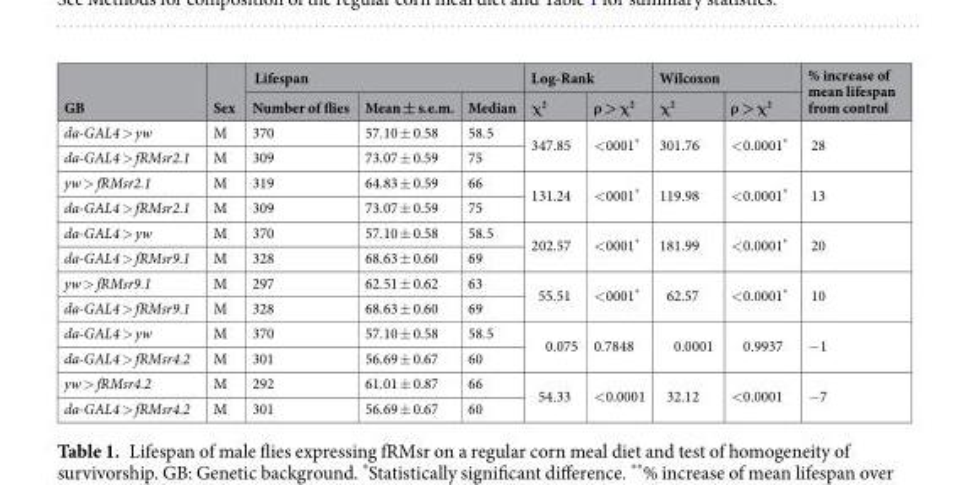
<table><thead><tr><td rowspan="2">GB</td><td rowspan="2">Sex</td><td colspan="3">Lifespan</td><td colspan="2">Log-Rank</td><td colspan="2">Wilcoxon</td><td rowspan="2">% increase of mean lifespan from control</td></tr><tr><td>Number of flies</td><td>Mean ± s.e.m.</td><td>Median</td><td>χ<sup>2</sup></td><td>ρ &gt; χ<sup>2</sup></td><td>χ<sup>2</sup></td><td>ρ &gt; χ<sup>2</sup></td></tr></thead><tbody><tr><td>da-GAL4 &gt; yw</td><td>M</td><td>370</td><td>57.10 ± 0.58</td><td>58.5</td><td rowspan="2">347.85</td><td rowspan="2">&lt;0001*</td><td rowspan="2">301.76</td><td rowspan="2">&lt;0.0001*</td><td rowspan="2">28</td></tr><tr><td>da-GAL4 &gt; fRMsr2.1</td><td>M</td><td>309</td><td>73.07 ± 0.59</td><td>75</td></tr><tr><td>yw &gt; fRMsr2.1</td><td>M</td><td>319</td><td>64.83 ± 0.59</td><td>66</td><td rowspan="2">131.24</td><td rowspan="2">&lt;0001*</td><td rowspan="2">119.98</td><td rowspan="2">&lt;0.0001*</td><td rowspan="2">13</td></tr><tr><td>da-GAL4 &gt; fRMsr2.1</td><td>M</td><td>309</td><td>73.07 ± 0.59</td><td>75</td></tr><tr><td>da-GAL4 &gt; yw</td><td>M</td><td>370</td><td>57.10 ± 0.58</td><td>58.5</td><td rowspan="2">202.57</td><td rowspan="2">&lt;0001*</td><td rowspan="2">181.99</td><td rowspan="2">&lt;0.0001*</td><td rowspan="2">20</td></tr><tr><td>da-GAL4 &gt; fRMsr9.1</td><td>M</td><td>328</td><td>68.63 ± 0.60</td><td>69</td></tr><tr><td>yw &gt; fRMsr9.1</td><td>M</td><td>297</td><td>62.51 ± 0.62</td><td>63</td><td rowspan="2">55.51</td><td rowspan="2">&lt;0001*</td><td rowspan="2">62.57</td><td rowspan="2">&lt;0.0001*</td><td rowspan="2">10</td></tr><tr><td>da-GAL4 &gt; fRMsr9.1</td><td>M</td><td>328</td><td>68.63 ± 0.60</td><td>69</td></tr><tr><td>da-GAL4 &gt; yw</td><td>M</td><td>370</td><td>57.10 ± 0.58</td><td>58.5</td><td rowspan="2">0.075</td><td rowspan="2">0.7848</td><td rowspan="2">0.0001</td><td rowspan="2">0.9937</td><td rowspan="2">−1</td></tr><tr><td>da-GAL4 &gt; fRMsr4.2</td><td>M</td><td>301</td><td>56.69 ± 0.67</td><td>60</td></tr><tr><td>yw &gt; fRMsr4.2</td><td>M</td><td>292</td><td>61.01 ± 0.87</td><td>66</td><td rowspan="2">54.33</td><td rowspan="2">&lt;0.0001</td><td rowspan="2">32.12</td><td rowspan="2">&lt;0.0001</td><td rowspan="2">−7</td></tr><tr><td>da-GAL4 &gt; fRMsr4.2</td><td>M</td><td>301</td><td>56.69 ± 0.67</td><td>60</td></tr></tbody></table>